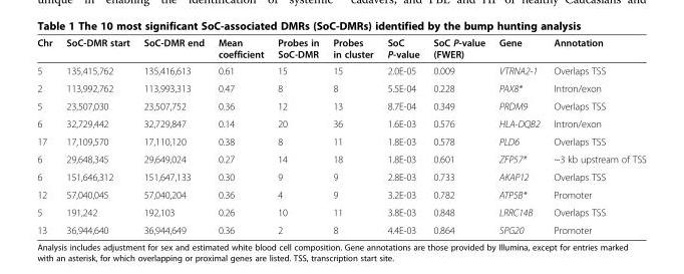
<table><thead><tr><td>Chr</td><td>SoC-DMR start</td><td>SoC-DMR end</td><td>Mean coefficient</td><td>Probes in SoC-DMR</td><td>Probes in cluster</td><td>SoC P-value</td><td>SoC P-value (FWER)</td><td>Gene</td><td>Annotation</td></tr></thead><tbody><tr><td>5</td><td>135,415,762</td><td>135,416,613</td><td>0.61</td><td>15</td><td>15</td><td>2.0E-05</td><td>0.009</td><td>VTRNA2-1</td><td>Overlaps TSS</td></tr><tr><td>2</td><td>113,992,762</td><td>113,993,313</td><td>0.47</td><td>8</td><td>8</td><td>5.5E-04</td><td>0.228</td><td>PAX8*</td><td>Intron/exon</td></tr><tr><td>5</td><td>23,507,030</td><td>23,507,752</td><td>0.36</td><td>12</td><td>13</td><td>8.7E-04</td><td>0.349</td><td>PRDM9</td><td>Overlaps TSS</td></tr><tr><td>6</td><td>32,729,442</td><td>32,729,847</td><td>0.14</td><td>20</td><td>36</td><td>1.6E-03</td><td>0.576</td><td>HLA-DQB2</td><td>Intron/exon</td></tr><tr><td>17</td><td>17,109,570</td><td>17,110,120</td><td>0.38</td><td>8</td><td>11</td><td>1.8E-03</td><td>0.578</td><td>PLD6</td><td>Overlaps TSS</td></tr><tr><td>6</td><td>29,648,345</td><td>29,649,024</td><td>0.27</td><td>14</td><td>18</td><td>1.8E-03</td><td>0.601</td><td>ZFP57*</td><td>~3 kb upstream of TSS</td></tr><tr><td>6</td><td>151,646,312</td><td>151,647,133</td><td>0.30</td><td>9</td><td>9</td><td>2.8E-03</td><td>0.733</td><td>AKAP12</td><td>Overlaps TSS</td></tr><tr><td>12</td><td>57,040,045</td><td>57,040,204</td><td>0.36</td><td>4</td><td>9</td><td>3.2E-03</td><td>0.782</td><td>ATP5B*</td><td>Promoter</td></tr><tr><td>5</td><td>191,242</td><td>192,103</td><td>0.26</td><td>10</td><td>11</td><td>3.8E-03</td><td>0.848</td><td>LRRC14B</td><td>Overlaps TSS</td></tr><tr><td>13</td><td>36,944,640</td><td>36,944,649</td><td>0.36</td><td>2</td><td>8</td><td>4.4E-03</td><td>0.864</td><td>SPG20</td><td>Promoter</td></tr></tbody></table>